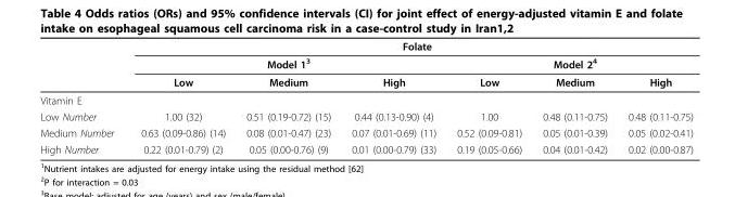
<table><thead><tr><td rowspan="3"></td><td colspan="6">Folate</td></tr><tr><td colspan="3">Model 1<sup>3</sup></td><td colspan="3">Model 2<sup>4</sup></td></tr><tr><td>Low</td><td>Medium</td><td>High</td><td>Low</td><td>Medium</td><td>High</td></tr></thead><tbody><tr><td colspan="7">Vitamin E</td></tr><tr><td>Low Number</td><td>1.00 (32)</td><td>0.51 (0.19-0.72) (15)</td><td>0.44 (0.13-0.90) (4)</td><td>1.00</td><td>0.48 (0.11-0.75)</td><td>0.48 (0.11-0.75)</td></tr><tr><td>Medium Number</td><td>0.63 (0.09-0.86) (14)</td><td>0.08 (0.01-0.47) (23)</td><td>0.07 (0.01-0.69) (11)</td><td>0.52 (0.09-0.81)</td><td>0.05 (0.01-0.39)</td><td>0.05 (0.02-0.41)</td></tr><tr><td>High Number</td><td>0.22 (0.01-0.79) (2)</td><td>0.05 (0.00-0.76) (9)</td><td>0.01 (0.00-0.79) (33)</td><td>0.19 (0.05-0.66)</td><td>0.04 (0.01-0.42)</td><td>0.02 (0.00-0.87)</td></tr></tbody></table>